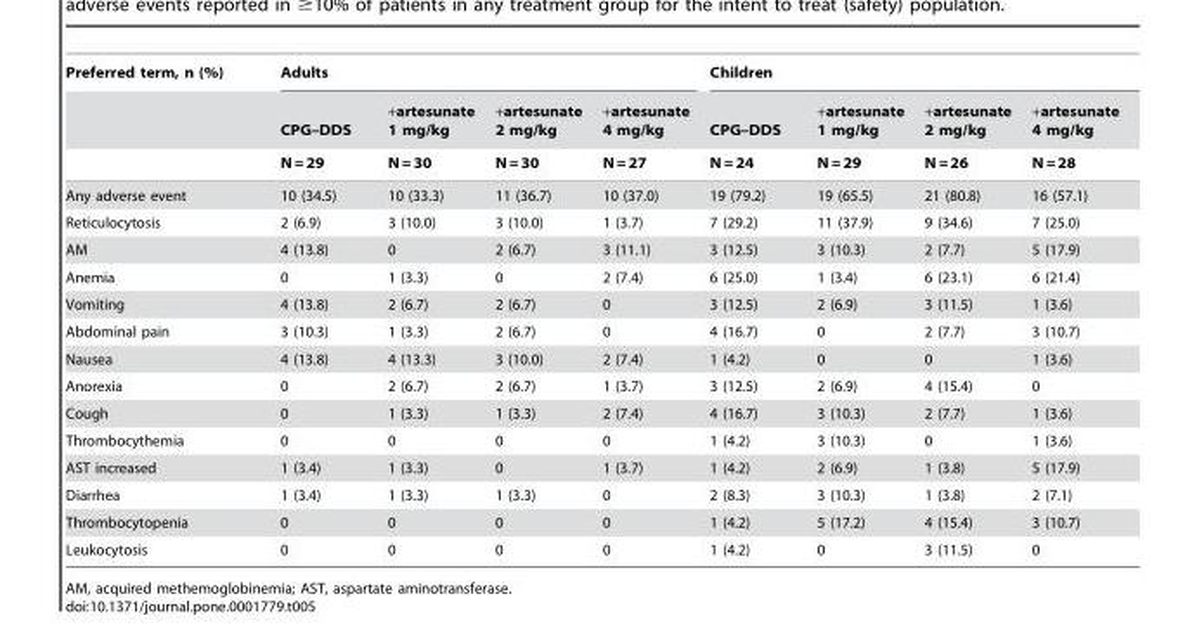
<table><thead><tr><td rowspan="3">Preferred term, n (%)</td><td colspan="4">Adults</td><td colspan="4">Children</td></tr><tr><td rowspan="2">CPG–DDS N = 29</td><td rowspan="2">+artesunate 1 mg/kg N = 30</td><td rowspan="2">+artesunate 2 mg/kg N = 30</td><td rowspan="2">+artesunate 4 mg/kg N = 27</td><td rowspan="2">CPG–DDS N = 24</td><td rowspan="2">+artesunate 1 mg/kg N = 29</td><td rowspan="2">+artesunate 2 mg/kg N = 26</td><td rowspan="2">+artesunate 4 mg/kg N = 28</td></tr><tr></tr></thead><tbody><tr><td>Any adverse event</td><td>10 (34.5)</td><td>10 (33.3)</td><td>11 (36.7)</td><td>10 (37.0)</td><td>19 (79.2)</td><td>19 (65.5)</td><td>21 (80.8)</td><td>16 (57.1)</td></tr><tr><td>Reticulocytosis</td><td>2 (6.9)</td><td>3 (10.0)</td><td>3 (10.0)</td><td>1 (3.7)</td><td>7 (29.2)</td><td>11 (37.9)</td><td>9 (34.6)</td><td>7 (25.0)</td></tr><tr><td>AM</td><td>4 (13.8)</td><td>0</td><td>2 (6.7)</td><td>3 (11.1)</td><td>3 (12.5)</td><td>3 (10.3)</td><td>2 (7.7)</td><td>5 (17.9)</td></tr><tr><td>Anemia</td><td>0</td><td>1 (3.3)</td><td>0</td><td>2 (7.4)</td><td>6 (25.0)</td><td>1 (3.4)</td><td>6 (23.1)</td><td>6 (21.4)</td></tr><tr><td>Vomiting</td><td>4 (13.8)</td><td>2 (6.7)</td><td>2 (6.7)</td><td>0</td><td>3 (12.5)</td><td>2 (6.9)</td><td>3 (11.5)</td><td>1 (3.6)</td></tr><tr><td>Abdominal pain</td><td>3 (10.3)</td><td>1 (3.3)</td><td>2 (6.7)</td><td>0</td><td>4 (16.7)</td><td>0</td><td>2 (7.7)</td><td>3 (10.7)</td></tr><tr><td>Nausea</td><td>4 (13.8)</td><td>4 (13.3)</td><td>3 (10.0)</td><td>2 (7.4)</td><td>1 (4.2)</td><td>0</td><td>0</td><td>1 (3.6)</td></tr><tr><td>Anorexia</td><td>0</td><td>2 (6.7)</td><td>2 (6.7)</td><td>1 (3.7)</td><td>3 (12.5)</td><td>2 (6.9)</td><td>4 (15.4)</td><td>0</td></tr><tr><td>Cough</td><td>0</td><td>1 (3.3)</td><td>1 (3.3)</td><td>2 (7.4)</td><td>4 (16.7)</td><td>3 (10.3)</td><td>2 (7.7)</td><td>1 (3.6)</td></tr><tr><td>Thrombocythemia</td><td>0</td><td>0</td><td>0</td><td>0</td><td>1 (4.2)</td><td>3 (10.3)</td><td>0</td><td>1 (3.6)</td></tr><tr><td>AST increased</td><td>1 (3.4)</td><td>1 (3.3)</td><td>0</td><td>1 (3.7)</td><td>1 (4.2)</td><td>2 (6.9)</td><td>1 (3.8)</td><td>5 (17.9)</td></tr><tr><td>Diarrhea</td><td>1 (3.4)</td><td>1 (3.3)</td><td>1 (3.3)</td><td>0</td><td>2 (8.3)</td><td>3 (10.3)</td><td>1 (3.8)</td><td>2 (7.1)</td></tr><tr><td>Thrombocytopenia</td><td>0</td><td>0</td><td>0</td><td>0</td><td>1 (4.2)</td><td>5 (17.2)</td><td>4 (15.4)</td><td>3 (10.7)</td></tr><tr><td>Leukocytosis</td><td>0</td><td>0</td><td>0</td><td>0</td><td>1 (4.2)</td><td>0</td><td>3 (11.5)</td><td>0</td></tr></tbody></table>